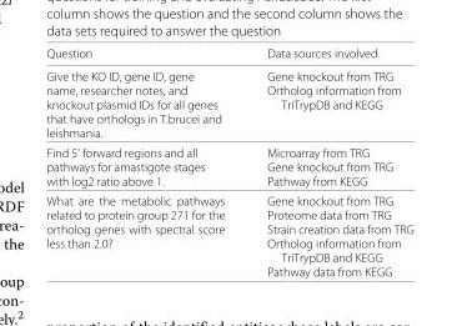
<table><thead><tr><td>Question</td><td>Data sources involved</td></tr></thead><tbody><tr><td>Give the KO ID, gene ID, gene name, researcher notes, and knockout plasmid IDs for all genes that have orthologs in T.brucei and leishmania.</td><td>Gene knockout from TRG Ortholog information from TriTrypDB and KEGG</td></tr><tr><td>Find 5’ forward regions and all pathways for amastigote stages with log2 ratio above 1.</td><td>Microarray from TRG Gene knockout from TRG Pathway from KEGG</td></tr><tr><td>What are the metabolic pathways related to protein group 271 for the ortholog genes with spectral score less than 2.0?</td><td>Gene knockout from TRG Proteome data from TRG Strain creation data from TRG Ortholog information from TriTrypDB and KEGG Pathway data from KEGG</td></tr></tbody></table>